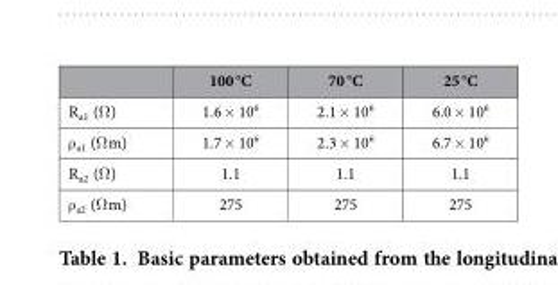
<table><thead><tr><td></td><td>100 °C</td><td>70 °C</td><td>25 °C</td></tr></thead><tbody><tr><td>R<sub>a1</sub> (Ω )</td><td>1.6 × 10<sup>6</sup></td><td>2.1 × 10<sup>6</sup></td><td>6.0 × 10<sup>6</sup></td></tr><tr><td>ρ <sub>a1</sub> (Ω m)</td><td>1.7 × 10<sup>6</sup></td><td>2.3 × 10<sup>6</sup></td><td>6.7 × 10<sup>6</sup></td></tr><tr><td>R<sub>a2</sub> (Ω )</td><td>1.1</td><td>1.1</td><td>1.1</td></tr><tr><td>ρ <sub>a2</sub> (Ω m)</td><td>275</td><td>275</td><td>275</td></tr></tbody></table>